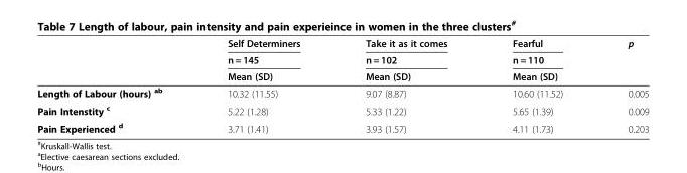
<table><thead><tr><td rowspan="3"></td><td rowspan="3">Self Determiners n = 145 Mean (SD)</td><td rowspan="3">Take it as it comes n = 102 Mean (SD)</td><td rowspan="3">Fearful n = 110 Mean (SD)</td><td rowspan="3">p</td></tr><tr></tr><tr></tr></thead><tbody><tr><td>Length of Labour (hours) <sup>ab</sup></td><td>10.32 (11.55)</td><td>9.07 (8.87)</td><td>10.60 (11.52)</td><td>0.005</td></tr><tr><td>Pain Intenstity <sup>c</sup></td><td>5.22 (1.28)</td><td>5.33 (1.22)</td><td>5.65 (1.39)</td><td>0.009</td></tr><tr><td>Pain Experienced <sup>d</sup></td><td>3.71 (1.41)</td><td>3.93 (1.57)</td><td>4.11 (1.73)</td><td>0.203</td></tr></tbody></table>